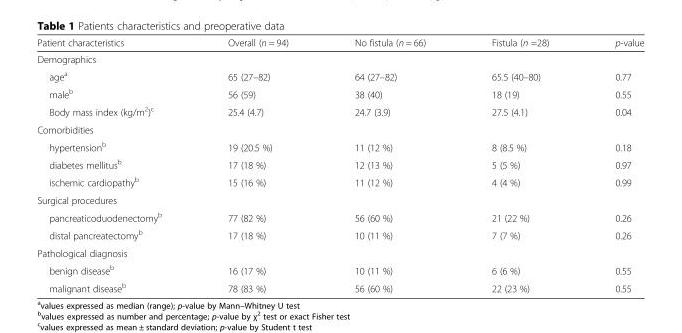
<table><thead><tr><td>Patient characteristics</td><td>Overall (n = 94)</td><td>No fistula (n = 66)</td><td>Fistula (n =28)</td><td>p-value</td></tr></thead><tbody><tr><td colspan="5">Demographics</td></tr><tr><td>age<sup>a</sup></td><td>65 (27–82)</td><td>64 (27–82)</td><td>65.5 (40–80)</td><td>0.77</td></tr><tr><td>male<sup>b</sup></td><td>56 (59)</td><td>38 (40)</td><td>18 (19)</td><td>0.55</td></tr><tr><td>Body mass index (kg/m<sup>2</sup>)<sup>c</sup></td><td>25.4 (4.7)</td><td>24.7 (3.9)</td><td>27.5 (4.1)</td><td>0.04</td></tr><tr><td colspan="5">Comorbidities</td></tr><tr><td>hypertension<sup>b</sup></td><td>19 (20.5 %)</td><td>11 (12 %)</td><td>8 (8.5 %)</td><td>0.18</td></tr><tr><td>diabetes mellitus<sup>b</sup></td><td>17 (18 %)</td><td>12 (13 %)</td><td>5 (5 %)</td><td>0.97</td></tr><tr><td>ischemic cardiopathy<sup>b</sup></td><td>15 (16 %)</td><td>11 (12 %)</td><td>4 (4 %)</td><td>0.99</td></tr><tr><td colspan="5">Surgical procedures</td></tr><tr><td>pancreaticoduodenectomy<sup>b</sup></td><td>77 (82 %)</td><td>56 (60 %)</td><td>21 (22 %)</td><td>0.26</td></tr><tr><td>distal pancreatectomy<sup>b</sup></td><td>17 (18 %)</td><td>10 (11 %)</td><td>7 (7 %)</td><td>0.26</td></tr><tr><td colspan="5">Pathological diagnosis</td></tr><tr><td>benign disease<sup>b</sup></td><td>16 (17 %)</td><td>10 (11 %)</td><td>6 (6 %)</td><td>0.55</td></tr><tr><td>malignant disease<sup>b</sup></td><td>78 (83 %)</td><td>56 (60 %)</td><td>22 (23 %)</td><td>0.55</td></tr></tbody></table>